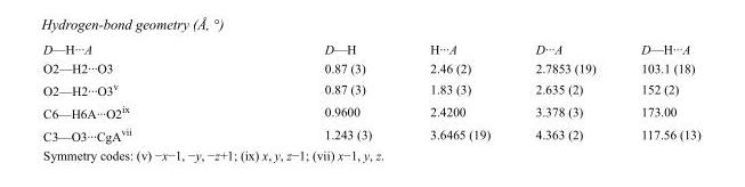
<table><tbody><tr><td>D—H···A</td><td>D—H</td><td>H···A</td><td>D···A</td><td>D—H···A</td></tr><tr><td>O2—H2···O3</td><td>0.87 (3)</td><td>2.46 (2)</td><td>2.7853 (19)</td><td>103.1 (18)</td></tr><tr><td>O2—H2···O3<sup>v</sup></td><td>0.87 (3)</td><td>1.83 (3)</td><td>2.635 (2)</td><td>152 (2)</td></tr><tr><td>C6—H6A···O2<sup>ix</sup></td><td>0.9600</td><td>2.4200</td><td>3.378 (3)</td><td>173.00</td></tr><tr><td>C3—O3···CgA<sup>vii</sup></td><td>1.243 (3)</td><td>3.6465 (19)</td><td>4.363 (2)</td><td>117.56 (13)</td></tr></tbody></table>